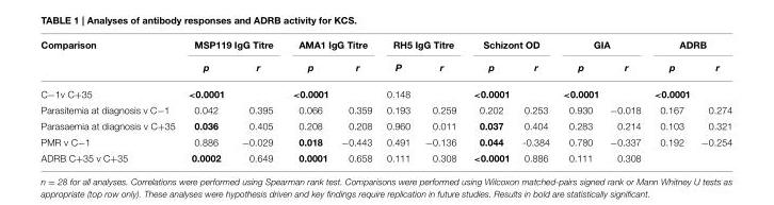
<table><thead><tr><td rowspan="2">Comparison</td><td colspan="2">MSP119 IgG Titre</td><td colspan="2">AMA1 IgG Titre</td><td colspan="2">RH5 IgG Titre</td><td colspan="2">Schizont OD</td><td colspan="2">GIA</td><td colspan="2">ADRB</td></tr><tr><td>p</td><td>r</td><td>p</td><td>r</td><td>P</td><td>r</td><td>p</td><td>r</td><td>p</td><td>r</td><td>p</td><td>r</td></tr></thead><tbody><tr><td>C−1v C+35</td><td>&lt;0.0001</td><td></td><td>&lt;0.0001</td><td></td><td>0.148</td><td></td><td>&lt;0.0001</td><td></td><td>&lt;0.0001</td><td></td><td>&lt;0.0001</td><td></td></tr><tr><td>Parasitemia at diagnosis v C−1</td><td>0.042</td><td>0.395</td><td>0.066</td><td>0.359</td><td>0.193</td><td>0.259</td><td>0.202</td><td>0.253</td><td>0.930</td><td>−0.018</td><td>0.167</td><td>0.274</td></tr><tr><td>Parasaemia at diagnosis v C+35</td><td>0.036</td><td>0.405</td><td>0.208</td><td>0.208</td><td>0.960</td><td>0.011</td><td>0.037</td><td>0.404</td><td>0.283</td><td>0.214</td><td>0.103</td><td>0.321</td></tr><tr><td>PMR v C−1</td><td>0.886</td><td>−0.029</td><td>0.018</td><td>−0.443</td><td>0.491</td><td>−0.136</td><td>0.044</td><td>-0.384</td><td>0.780</td><td>−0.337</td><td>0.192</td><td>−0.254</td></tr><tr><td>ADRB C+35 v C+35</td><td>0.0002</td><td>0.649</td><td>0.0001</td><td>0.658</td><td>0.111</td><td>0.308</td><td>&lt;0.0001</td><td>0.886</td><td>0.111</td><td>0.308</td><td></td><td></td></tr></tbody></table>